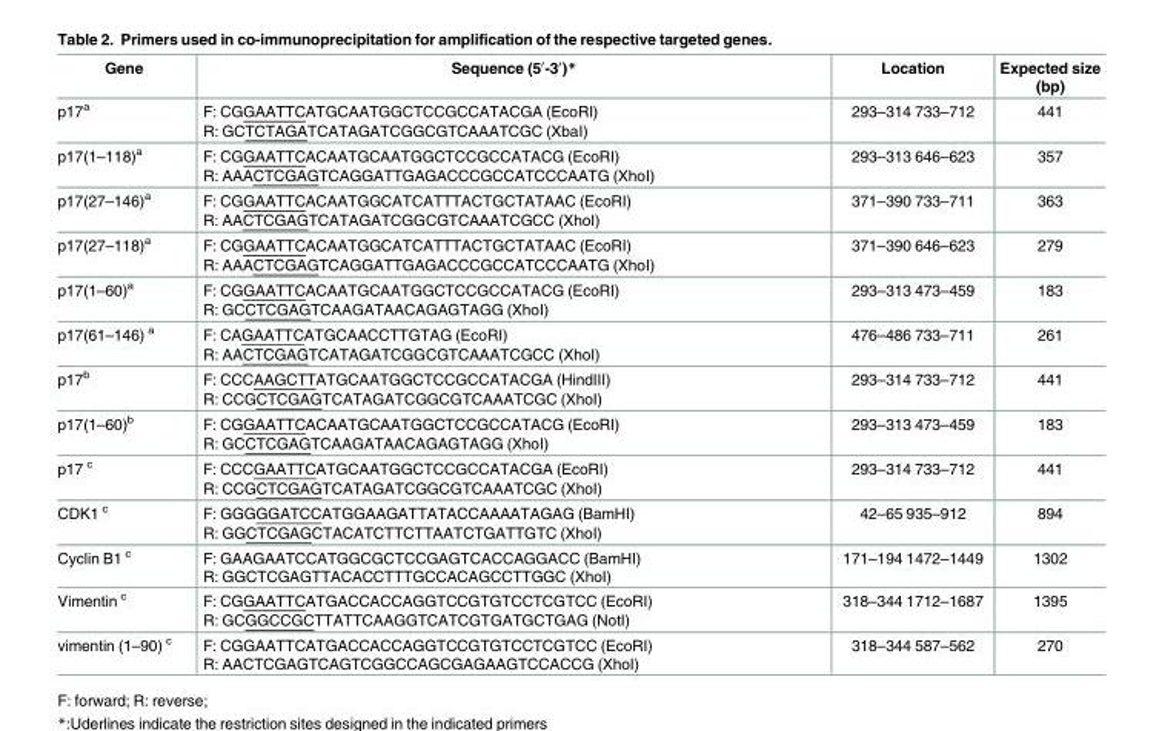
<table><thead><tr><td>Gene</td><td>Sequence (5′-3′)*</td><td>Location</td><td>Expected size (bp)</td></tr></thead><tbody><tr><td>p17<sup>a</sup></td><td>F: CGGAATTCATGCAATGGCTCCGCCATACGA (EcoRI) R: GCTCTAGATCATAGATCGGCGTCAAATCGC (XbaI)</td><td>293–314 733–712</td><td>441</td></tr><tr><td>p17(1–118)<sup>a</sup></td><td>F: CGGAATTCACAATGCAATGGCTCCGCCATACG (EcoRI) R: AAACTCGAGTCAGGATTGAGACCCGCCATCCCAATG (XhoI)</td><td>293–313 646–623</td><td>357</td></tr><tr><td>p17(27–146)<sup>a</sup></td><td>F: CGGAATTCACAATGGCATCATTTACTGCTATAAC (EcoRI) R: AACTCGAGTCATAGATCGGCGTCAAATCGCC (XhoI)</td><td>371–390 733–711</td><td>363</td></tr><tr><td>p17(27–118)<sup>a</sup></td><td>F: CGGAATTCACAATGGCATCATTTACTGCTATAAC (EcoRI) R: AAACTCGAGTCAGGATTGAGACCCGCCATCCCAATG (XhoI)</td><td>371–390 646–623</td><td>279</td></tr><tr><td>p17(1–60)<sup>a</sup></td><td>F: CGGAATTCACAATGCAATGGCTCCGCCATACG (EcoRI) R: GCCTCGAGTCAAGATAACAGAGTAGG (XhoI)</td><td>293–313 473–459</td><td>183</td></tr><tr><td>p17(61–146) <sup>a</sup></td><td>F: CAGAATTCATGCAACCTTGTAG (EcoRI) R: AACTCGAGTCATAGATCGGCGTCAAATCGCC (XhoI)</td><td>476–486 733–711</td><td>261</td></tr><tr><td>p17<sup>b</sup></td><td>F: CCCAAGCTTATGCAATGGCTCCGCCATACGA (HindIII) R: CCGCTCGAGTCATAGATCGGCGTCAAATCGC (XhoI)</td><td>293–314 733–712</td><td>441</td></tr><tr><td>p17(1–60)<sup>b</sup></td><td>F: CGGAATTCACAATGCAATGGCTCCGCCATACG (EcoRI) R: GCCTCGAGTCAAGATAACAGAGTAGG (XhoI)</td><td>293–313 473–459</td><td>183</td></tr><tr><td>p17 <sup>c</sup></td><td>F: CCCGAATTCATGCAATGGCTCCGCCATACGA (EcoRI) R: CCGCTCGAGTCATAGATCGGCGTCAAATCGC (XhoI)</td><td>293–314 733–712</td><td>441</td></tr><tr><td>CDK1 <sup>c</sup></td><td>F: GGGGGATCCATGGAAGATTATACCAAAATAGAG (BamHI) R: GGCTCGAGCTACATCTTCTTAATCTGATTGTC (XhoI)</td><td>42–65 935–912</td><td>894</td></tr><tr><td>Cyclin B1 <sup>c</sup></td><td>F: GAAGAATCCATGGCGCTCCGAGTCACCAGGACC (BamHI) R: GGCTCGAGTTACACCTTTGCCACAGCCTTGGC (XhoI)</td><td>171–194 1472–1449</td><td>1302</td></tr><tr><td>Vimentin <sup>c</sup></td><td>F: CGGAATTCATGACCACCAGGTCCGTGTCCTCGTCC (EcoRI) R: GCGGCCGCTTATTCAAGGTCATCGTGATGCTGAG (NotI)</td><td>318–344 1712–1687</td><td>1395</td></tr><tr><td>vimentin (1–90) <sup>c</sup></td><td>F: CGGAATTCATGACCACCAGGTCCGTGTCCTCGTCC (EcoRI) R: AACTCGAGTCAGTCGGCCAGCGAGAAGTCCACCG (XhoI)</td><td>318–344 587–562</td><td>270</td></tr></tbody></table>